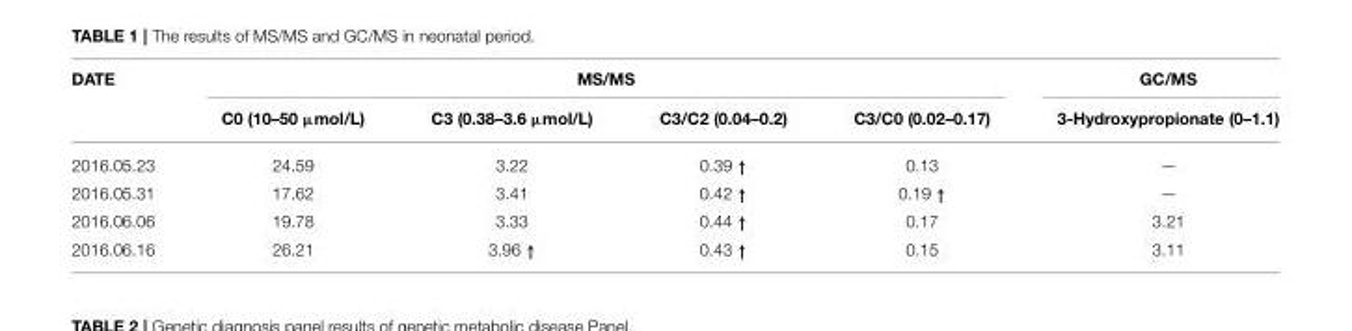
<table><thead><tr><td rowspan="2">DATE</td><td colspan="4">MS/MS</td><td rowspan="2">GC/MS 3-Hydroxypropionate (0–1.1)</td></tr><tr><td>C0 (10–50 µmol/L)</td><td>C3 (0.38–3.6 µmol/L)</td><td>C3/C2 (0.04–0.2)</td><td>C3/C0 (0.02–0.17)</td></tr></thead><tbody><tr><td>2016.05.23</td><td>24.59</td><td>3.22</td><td>0.39 ↑</td><td>0.13</td><td>—</td></tr><tr><td>2016.05.31</td><td>17.62</td><td>3.41</td><td>0.42 ↑</td><td>0.19 ↑</td><td>—</td></tr><tr><td>2016.06.06</td><td>19.78</td><td>3.33</td><td>0.44 ↑</td><td>0.17</td><td>3.21</td></tr><tr><td>2016.06.16</td><td>26.21</td><td>3.96 ↑</td><td>0.43 ↑</td><td>0.15</td><td>3.11</td></tr></tbody></table>